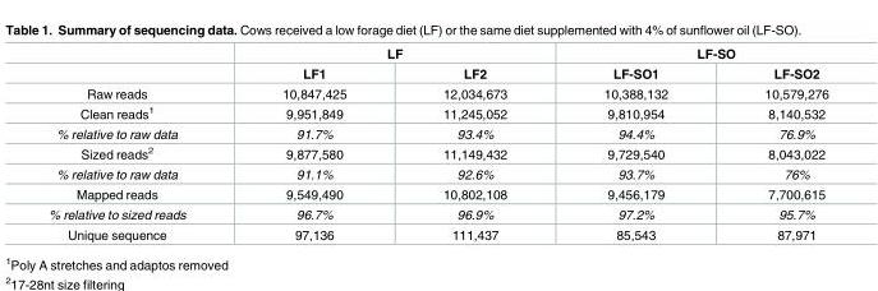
<table><thead><tr><td rowspan="2"></td><td colspan="2">LF</td><td colspan="2">LF-SO</td></tr><tr><td>LF1</td><td>LF2</td><td>LF-SO1</td><td>LF-SO2</td></tr></thead><tbody><tr><td>Raw reads</td><td>10,847,425</td><td>12,034,673</td><td>10,388,132</td><td>10,579,276</td></tr><tr><td>Clean reads<sup>1</sup></td><td>9,951,849</td><td>11,245,052</td><td>9,810,954</td><td>8,140,532</td></tr><tr><td>% relative to raw data</td><td>91.7%</td><td>93.4%</td><td>94.4%</td><td>76.9%</td></tr><tr><td>Sized reads<sup>2</sup></td><td>9,877,580</td><td>11,149,432</td><td>9,729,540</td><td>8,043,022</td></tr><tr><td>% relative to raw data</td><td>91.1%</td><td>92.6%</td><td>93.7%</td><td>76%</td></tr><tr><td>Mapped reads</td><td>9,549,490</td><td>10,802,108</td><td>9,456,179</td><td>7,700,615</td></tr><tr><td>% relative to sized reads</td><td>96.7%</td><td>96.9%</td><td>97.2%</td><td>95.7%</td></tr><tr><td>Unique sequence</td><td>97,136</td><td>111,437</td><td>85,543</td><td>87,971</td></tr></tbody></table>